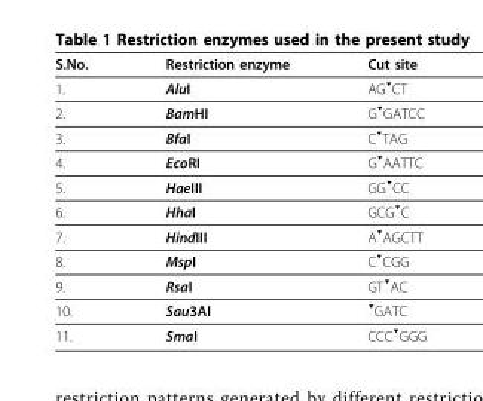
<table><thead><tr><td>S.No.</td><td>Restriction enzyme</td><td>Cut site</td></tr></thead><tbody><tr><td>1.</td><td>AluI</td><td>AG<sup>▼</sup>CT</td></tr><tr><td>2.</td><td>BamHI</td><td>G<sup>▼</sup>GATCC</td></tr><tr><td>3.</td><td>BfaI</td><td>C<sup>▼</sup>TAG</td></tr><tr><td>4.</td><td>EcoRI</td><td>G<sup>▼</sup>AATTC</td></tr><tr><td>5.</td><td>HaeIII</td><td>GG<sup>▼</sup>CC</td></tr><tr><td>6.</td><td>HhaI</td><td>GCG<sup>▼</sup>C</td></tr><tr><td>7.</td><td>HindIII</td><td>A<sup>▼</sup>AGCTT</td></tr><tr><td>8.</td><td>MspI</td><td>C<sup>▼</sup>CGG</td></tr><tr><td>9.</td><td>RsaI</td><td>GT<sup>▼</sup>AC</td></tr><tr><td>10.</td><td>Sau3AI</td><td><sup>▼</sup>GATC</td></tr><tr><td>11.</td><td>SmaI</td><td>CCC<sup>▼</sup>GGG</td></tr></tbody></table>